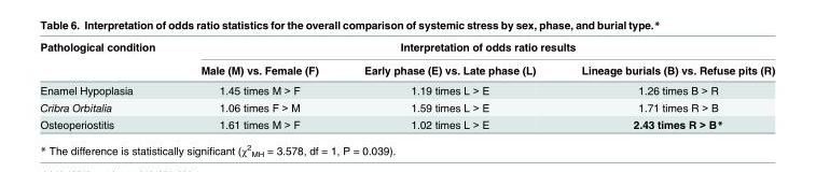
<table><thead><tr><td rowspan="2">Pathological condition</td><td colspan="3">Interpretation of odds ratio results</td></tr><tr><td>Male (M) vs. Female (F)</td><td>Early phase (E) vs. Late phase (L)</td><td>Lineage burials (B) vs. Refuse pits (R)</td></tr></thead><tbody><tr><td>Enamel Hypoplasia</td><td>1.45 times M &gt; F</td><td>1.19 times L &gt; E</td><td>1.26 times B &gt; R</td></tr><tr><td>Cribra Orbitalia</td><td>1.06 times F &gt; M</td><td>1.59 times L &gt; E</td><td>1.71 times R &gt; B</td></tr><tr><td>Osteoperiostitis</td><td>1.61 times M &gt; F</td><td>1.02 times L &gt; E</td><td>2.43 times R &gt; B*</td></tr></tbody></table>